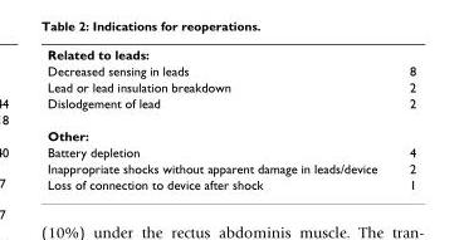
<table><tbody><tr><td colspan="2">Related to leads:</td></tr><tr><td>Decreased sensing in leads</td><td>8</td></tr><tr><td>Lead or lead insulation breakdown</td><td>2</td></tr><tr><td>Dislodgement of lead</td><td>2</td></tr><tr><td colspan="2">Other:</td></tr><tr><td>Battery depletion</td><td>4</td></tr><tr><td>Inappropriate shocks without apparent damage in leads/device</td><td>2</td></tr><tr><td>Loss of connection to device after shock</td><td>1</td></tr></tbody></table>